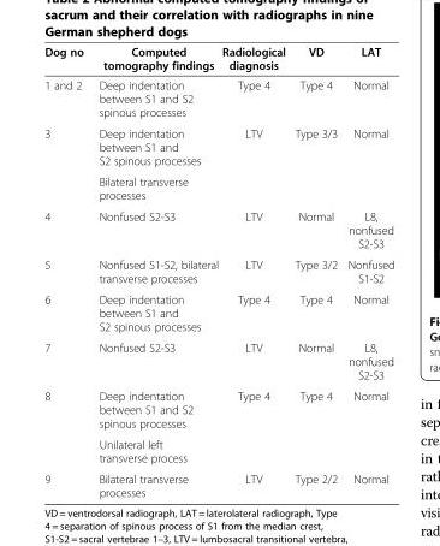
<table><thead><tr><td>Dog no</td><td>Computed tomography findings</td><td>Radiological diagnosis</td><td>VD</td><td>LAT</td></tr></thead><tbody><tr><td>1 and 2</td><td>Deep indentation between S1 and S2 spinous processes</td><td>Type 4</td><td>Type 4</td><td>Normal</td></tr><tr><td rowspan="2">3</td><td>Deep indentation between S1 and S2 spinous processes</td><td>LTV</td><td>Type 3/3</td><td>Normal</td></tr><tr><td>Bilateral transverse processes</td><td></td><td></td><td></td></tr><tr><td>4</td><td>Nonfused S2-S3</td><td>LTV</td><td>Normal</td><td>L8, nonfused S2-S3</td></tr><tr><td>5</td><td>Nonfused S1-S2, bilateral transverse processes</td><td>LTV</td><td>Type 3/2</td><td>Nonfused S1-S2</td></tr><tr><td>6</td><td>Deep indentation between S1 and S2 spinous processes</td><td>Type 4</td><td>Type 4</td><td>Normal</td></tr><tr><td>7</td><td>Nonfused S2-S3</td><td>LTV</td><td>Normal</td><td>L8, nonfused S2-S3</td></tr><tr><td rowspan="2">8</td><td>Deep indentation between S1 and S2 spinous processes</td><td>Type 4</td><td>Type 4</td><td>Normal</td></tr><tr><td>Unilateral left transverse process</td><td></td><td></td><td></td></tr><tr><td>9</td><td>Bilateral transverse processes</td><td>LTV</td><td>Type 2/2</td><td>Normal</td></tr></tbody></table>